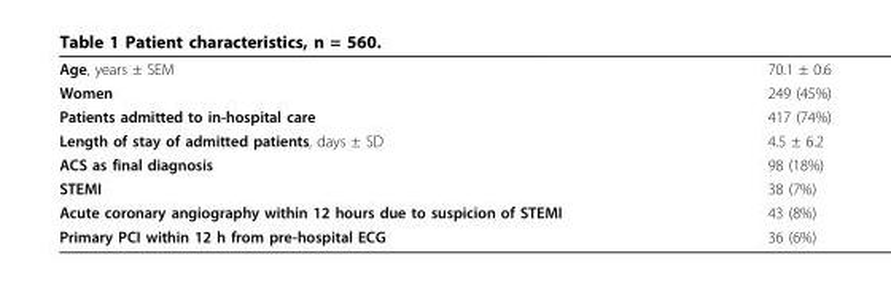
<table><tbody><tr><td>Age, years ± SEM</td><td>70.1 ± 0.6</td></tr><tr><td>Women</td><td>249 (45%)</td></tr><tr><td>Patients admitted to in-hospital care</td><td>417 (74%)</td></tr><tr><td>Length of stay of admitted patients, days ± SD</td><td>4.5 ± 6.2</td></tr><tr><td>ACS as final diagnosis</td><td>98 (18%)</td></tr><tr><td>STEMI</td><td>38 (7%)</td></tr><tr><td>Acute coronary angiography within 12 hours due to suspicion of STEMI</td><td>43 (8%)</td></tr><tr><td>Primary PCI within 12 h from pre-hospital ECG</td><td>36 (6%)</td></tr></tbody></table>